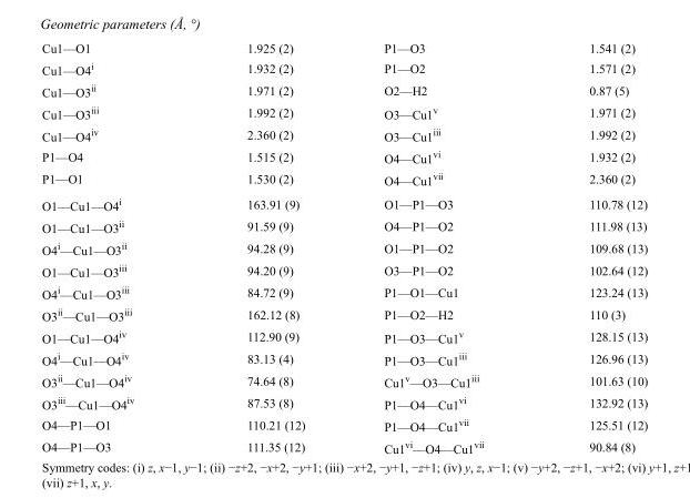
<table><tbody><tr><td>Cu1—O1</td><td>1.925 (2)</td><td>P1—O3</td><td>1.541 (2)</td></tr><tr><td>Cu1—O4<sup>i</sup></td><td>1.932 (2)</td><td>P1—O2</td><td>1.571 (2)</td></tr><tr><td>Cu1—O3<sup>ii</sup></td><td>1.971 (2)</td><td>O2—H2</td><td>0.87 (5)</td></tr><tr><td>Cu1—O3<sup>iii</sup></td><td>1.992 (2)</td><td>O3—Cu1<sup>v</sup></td><td>1.971 (2)</td></tr><tr><td>Cu1—O4<sup>iv</sup></td><td>2.360 (2)</td><td>O3—Cu1<sup>iii</sup></td><td>1.992 (2)</td></tr><tr><td>P1—O4</td><td>1.515 (2)</td><td>O4—Cu1<sup>vi</sup></td><td>1.932 (2)</td></tr><tr><td>P1—O1</td><td>1.530 (2)</td><td>O4—Cu1<sup>vii</sup></td><td>2.360 (2)</td></tr><tr><td>O1—Cu1—O4<sup>i</sup></td><td>163.91 (9)</td><td>O1—P1—O3</td><td>110.78 (12)</td></tr><tr><td>O1—Cu1—O3<sup>ii</sup></td><td>91.59 (9)</td><td>O4—P1—O2</td><td>111.98 (13)</td></tr><tr><td>O4<sup>i</sup>—Cu1—O3<sup>ii</sup></td><td>94.28 (9)</td><td>O1—P1—O2</td><td>109.68 (13)</td></tr><tr><td>O1—Cu1—O3<sup>iii</sup></td><td>94.20 (9)</td><td>O3—P1—O2</td><td>102.64 (12)</td></tr><tr><td>O4<sup>i</sup>—Cu1—O3<sup>iii</sup></td><td>84.72 (9)</td><td>P1—O1—Cu1</td><td>123.24 (13)</td></tr><tr><td>O3<sup>ii</sup>—Cu1—O3<sup>iii</sup></td><td>162.12 (8)</td><td>P1—O2—H2</td><td>110 (3)</td></tr><tr><td>O1—Cu1—O4<sup>iv</sup></td><td>112.90 (9)</td><td>P1—O3—Cu1<sup>v</sup></td><td>128.15 (13)</td></tr><tr><td>O4<sup>i</sup>—Cu1—O4<sup>iv</sup></td><td>83.13 (4)</td><td>P1—O3—Cu1<sup>iii</sup></td><td>126.96 (13)</td></tr><tr><td>O3<sup>ii</sup>—Cu1—O4<sup>iv</sup></td><td>74.64 (8)</td><td>Cu1<sup>v</sup>—O3—Cu1<sup>iii</sup></td><td>101.63 (10)</td></tr><tr><td>O3<sup>iii</sup>—Cu1—O4<sup>iv</sup></td><td>87.53 (8)</td><td>P1—O4—Cu1<sup>vi</sup></td><td>132.92 (13)</td></tr><tr><td>O4—P1—O1</td><td>110.21 (12)</td><td>P1—O4—Cu1<sup>vii</sup></td><td>125.51 (12)</td></tr><tr><td>O4—P1—O3</td><td>111.35 (12)</td><td>Cu1<sup>vi</sup>—O4—Cu1<sup>vii</sup></td><td>90.84 (8)</td></tr></tbody></table>